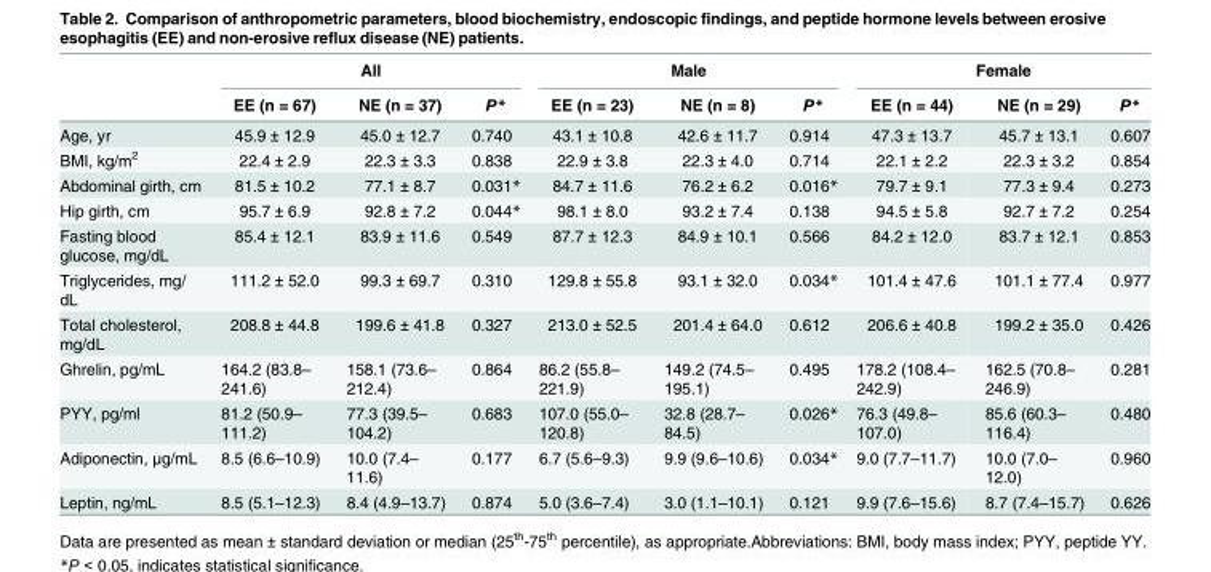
<table><thead><tr><td rowspan="2"></td><td colspan="3">All</td><td colspan="3">Male</td><td colspan="3">Female</td></tr><tr><td>EE (n = 67)</td><td>NE (n = 37)</td><td>P*</td><td>EE (n = 23)</td><td>NE (n = 8)</td><td>P*</td><td>EE (n = 44)</td><td>NE (n = 29)</td><td>P*</td></tr></thead><tbody><tr><td>Age, yr</td><td>45.9 ± 12.9</td><td>45.0 ± 12.7</td><td>0.740</td><td>43.1 ± 10.8</td><td>42.6 ± 11.7</td><td>0.914</td><td>47.3 ± 13.7</td><td>45.7 ± 13.1</td><td>0.607</td></tr><tr><td>BMI, kg/m<sup>2</sup></td><td>22.4 ± 2.9</td><td>22.3 ± 3.3</td><td>0.838</td><td>22.9 ± 3.8</td><td>22.3 ± 4.0</td><td>0.714</td><td>22.1 ± 2.2</td><td>22.3 ± 3.2</td><td>0.854</td></tr><tr><td>Abdominal girth, cm</td><td>81.5 ± 10.2</td><td>77.1 ± 8.7</td><td>0.031*</td><td>84.7 ± 11.6</td><td>76.2 ± 6.2</td><td>0.016*</td><td>79.7 ± 9.1</td><td>77.3 ± 9.4</td><td>0.273</td></tr><tr><td>Hip girth, cm</td><td>95.7 ± 6.9</td><td>92.8 ± 7.2</td><td>0.044*</td><td>98.1 ± 8.0</td><td>93.2 ± 7.4</td><td>0.138</td><td>94.5 ± 5.8</td><td>92.7 ± 7.2</td><td>0.254</td></tr><tr><td>Fasting blood glucose, mg/dL</td><td>85.4 ± 12.1</td><td>83.9 ± 11.6</td><td>0.549</td><td>87.7 ± 12.3</td><td>84.9 ± 10.1</td><td>0.566</td><td>84.2 ± 12.0</td><td>83.7 ± 12.1</td><td>0.853</td></tr><tr><td>Triglycerides, mg/ dL</td><td>111.2 ± 52.0</td><td>99.3 ± 69.7</td><td>0.310</td><td>129.8 ± 55.8</td><td>93.1 ± 32.0</td><td>0.034*</td><td>101.4 ± 47.6</td><td>101.1 ± 77.4</td><td>0.977</td></tr><tr><td>Total cholesterol, mg/dL</td><td>208.8 ± 44.8</td><td>199.6 ± 41.8</td><td>0.327</td><td>213.0 ± 52.5</td><td>201.4 ± 64.0</td><td>0.612</td><td>206.6 ± 40.8</td><td>199.2 ± 35.0</td><td>0.426</td></tr><tr><td>Ghrelin, pg/mL</td><td>164.2 (83.8– 241.6)</td><td>158.1 (73.6– 212.4)</td><td>0.864</td><td>86.2 (55.8– 221.9)</td><td>149.2 (74.5– 195.1)</td><td>0.495</td><td>178.2 (108.4– 242.9)</td><td>162.5 (70.8– 246.9)</td><td>0.281</td></tr><tr><td>PYY, pg/ml</td><td>81.2 (50.9– 111.2)</td><td>77.3 (39.5– 104.2)</td><td>0.683</td><td>107.0 (55.0– 120.8)</td><td>32.8 (28.7– 84.5)</td><td>0.026*</td><td>76.3 (49.8– 107.0)</td><td>85.6 (60.3– 116.4)</td><td>0.480</td></tr><tr><td>Adiponectin, μg/mL</td><td>8.5 (6.6–10.9)</td><td>10.0 (7.4– 11.6)</td><td>0.177</td><td>6.7 (5.6–9.3)</td><td>9.9 (9.6–10.6)</td><td>0.034*</td><td>9.0 (7.7–11.7)</td><td>10.0 (7.0– 12.0)</td><td>0.960</td></tr><tr><td>Leptin, ng/mL</td><td>8.5 (5.1–12.3)</td><td>8.4 (4.9–13.7)</td><td>0.874</td><td>5.0 (3.6–7.4)</td><td>3.0 (1.1–10.1)</td><td>0.121</td><td>9.9 (7.6–15.6)</td><td>8.7 (7.4–15.7)</td><td>0.626</td></tr></tbody></table>